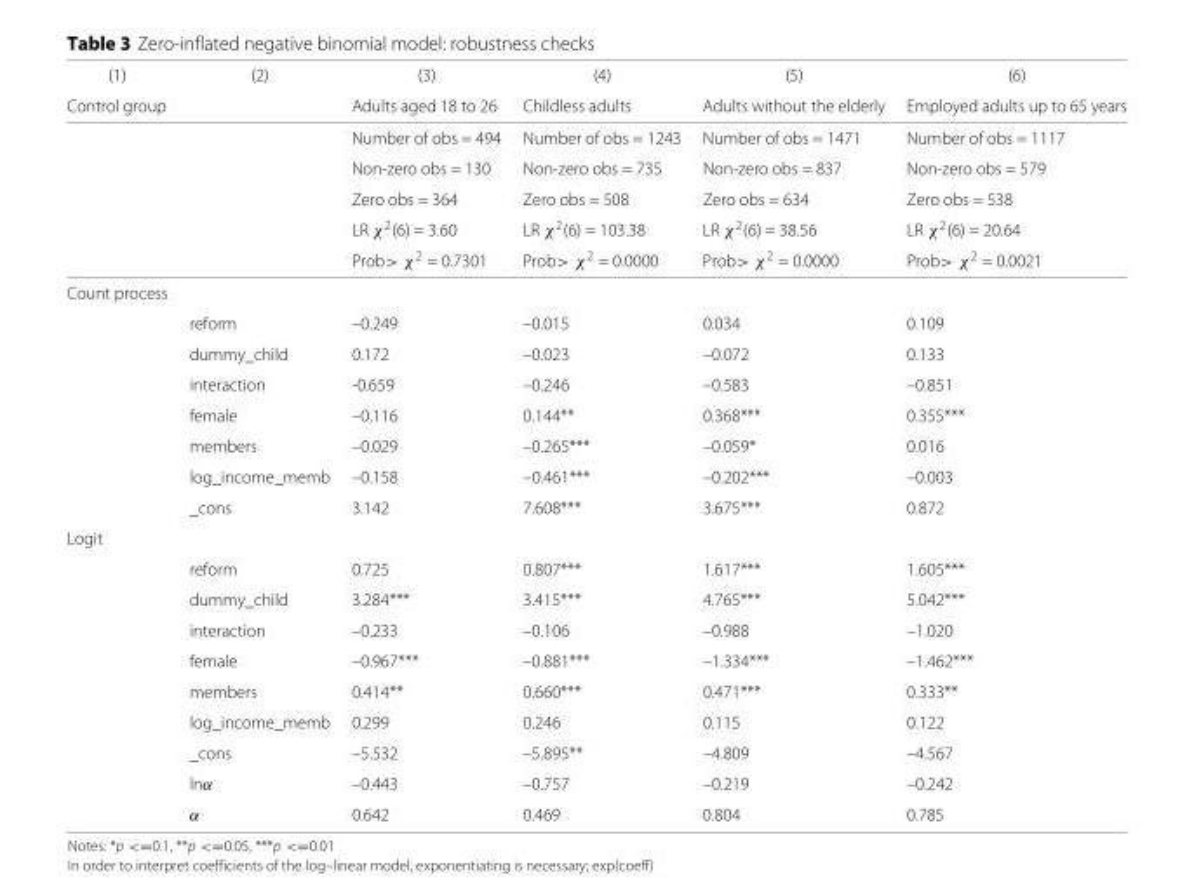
<table><thead><tr><td rowspan="2">(1) Control group</td><td rowspan="2">(2)</td><td rowspan="2">(3) Adults aged 18 to 26</td><td rowspan="2">(4) Childless adults</td><td rowspan="2">(5) Adults without the elderly</td><td rowspan="2">(6) Employed adults up to 65 years</td></tr><tr></tr></thead><tbody><tr><td></td><td></td><td>Number of obs = 494</td><td>Number of obs = 1243</td><td>Number of obs = 1471</td><td>Number of obs = 1117</td></tr><tr><td></td><td></td><td>Non-zero obs = 130</td><td>Non-zero obs = 735</td><td>Non-zero obs = 837</td><td>Non-zero obs = 579</td></tr><tr><td></td><td></td><td>Zero obs = 364</td><td>Zero obs = 508</td><td>Zero obs = 634</td><td>Zero obs = 538</td></tr><tr><td></td><td></td><td>LR χ<sup>2</sup>(6) = 3.60</td><td>LR χ<sup>2</sup>(6) = 103.38</td><td>LR χ<sup>2</sup>(6) = 38.56</td><td>LR χ<sup>2</sup>(6) = 20.64</td></tr><tr><td></td><td></td><td>Prob&gt; χ<sup>2</sup> = 0.7301</td><td>Prob&gt; χ<sup>2</sup> = 0.0000</td><td>Prob&gt; χ<sup>2</sup> = 0.0000</td><td>Prob&gt; χ<sup>2</sup> = 0.0021</td></tr><tr><td colspan="6">Count process</td></tr><tr><td></td><td>reform</td><td>–0.249</td><td>–0.015</td><td>0.034</td><td>0.109</td></tr><tr><td></td><td>dummy_child</td><td>0.172</td><td>–0.023</td><td>–0.072</td><td>0.133</td></tr><tr><td></td><td>interaction</td><td>-0.659</td><td>–0.246</td><td>–0.583</td><td>–0.851</td></tr><tr><td></td><td>female</td><td>–0.116</td><td>0.144**</td><td>0.368***</td><td>0.355***</td></tr><tr><td></td><td>members</td><td>–0.029</td><td>–0.265***</td><td>–0.059*</td><td>0.016</td></tr><tr><td></td><td>log_income_memb</td><td>–0.158</td><td>–0.461***</td><td>–0.202***</td><td>–0.003</td></tr><tr><td></td><td>_cons</td><td>3.142</td><td>7.608***</td><td>3.675***</td><td>0.872</td></tr><tr><td colspan="6">Logit</td></tr><tr><td></td><td>reform</td><td>0.725</td><td>0.807***</td><td>1.617***</td><td>1.605***</td></tr><tr><td></td><td>dummy_child</td><td>3.284***</td><td>3.415***</td><td>4.765***</td><td>5.042***</td></tr><tr><td></td><td>interaction</td><td>–0.233</td><td>–0.106</td><td>–0.988</td><td>–1.020</td></tr><tr><td></td><td>female</td><td>–0.967***</td><td>–0.881***</td><td>–1.334***</td><td>–1.462***</td></tr><tr><td></td><td>members</td><td>0.414**</td><td>0.660***</td><td>0.471***</td><td>0.333**</td></tr><tr><td></td><td>log_income_memb</td><td>0.299</td><td>0.246</td><td>0.115</td><td>0.122</td></tr><tr><td></td><td>_cons</td><td>–5.532</td><td>–5.895**</td><td>–4.809</td><td>–4.567</td></tr><tr><td></td><td>lnα</td><td>–0.443</td><td>–0.757</td><td>–0.219</td><td>–0.242</td></tr><tr><td></td><td>α</td><td>0.642</td><td>0.469</td><td>0.804</td><td>0.785</td></tr></tbody></table>